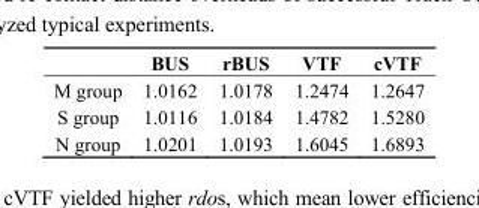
<table><thead><tr><td></td><td>BUS</td><td>rBUS</td><td>VTF</td><td>cVTF</td></tr></thead><tbody><tr><td>M group</td><td>1.0162</td><td>1.0178</td><td>1.2474</td><td>1.2647</td></tr><tr><td>S group</td><td>1.0116</td><td>1.0184</td><td>1.4782</td><td>1.5280</td></tr><tr><td>N group</td><td>1.0201</td><td>1.0193</td><td>1.6045</td><td>1.6893</td></tr></tbody></table>